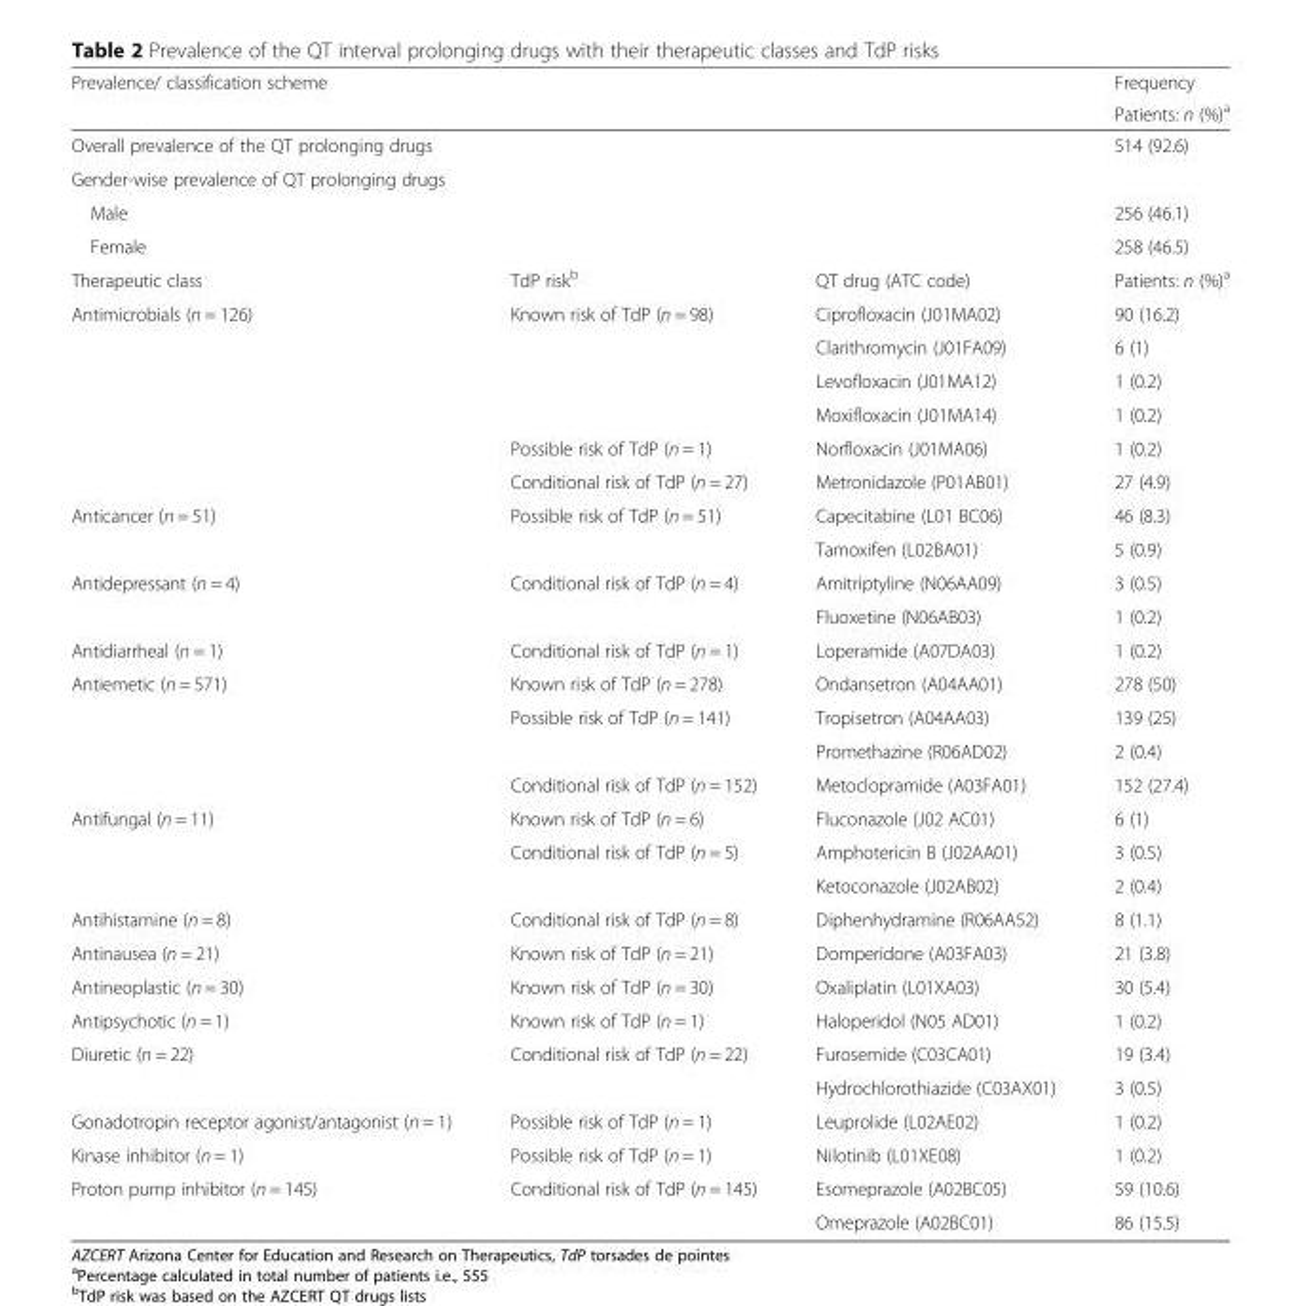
<table><thead><tr><td rowspan="2" colspan="3">Prevalence/ classification scheme</td><td rowspan="2">Frequency Patients: n (%)<sup>a</sup></td></tr><tr></tr></thead><tbody><tr><td colspan="3">Overall prevalence of the QT prolonging drugs</td><td>514 (92.6)</td></tr><tr><td colspan="4">Gender-wise prevalence of QT prolonging drugs</td></tr><tr><td colspan="3">Male</td><td>256 (46.1)</td></tr><tr><td colspan="3">Female</td><td>258 (46.5)</td></tr><tr><td>Therapeutic class</td><td>TdP risk<sup>b</sup></td><td>QT drug (ATC code)</td><td>Patients: n (%)<sup>a</sup></td></tr><tr><td rowspan="6">Antimicrobials (n = 126)</td><td rowspan="4">Known risk of TdP (n = 98)</td><td>Ciprofloxacin (J01MA02)</td><td>90 (16.2)</td></tr><tr><td>Clarithromycin (J01FA09)</td><td>6 (1)</td></tr><tr><td>Levofloxacin (J01MA12)</td><td>1 (0.2)</td></tr><tr><td>Moxifloxacin (J01MA14)</td><td>1 (0.2)</td></tr><tr><td>Possible risk of TdP (n = 1)</td><td>Norfloxacin (J01MA06)</td><td>1 (0.2)</td></tr><tr><td>Conditional risk of TdP (n = 27)</td><td>Metronidazole (P01AB01)</td><td>27 (4.9)</td></tr><tr><td rowspan="2">Anticancer (n = 51)</td><td rowspan="2">Possible risk of TdP (n = 51)</td><td>Capecitabine (L01 BC06)</td><td>46 (8.3)</td></tr><tr><td>Tamoxifen (L02BA01)</td><td>5 (0.9)</td></tr><tr><td rowspan="2">Antidepressant (n = 4)</td><td rowspan="2">Conditional risk of TdP (n = 4)</td><td>Amitriptyline (N06AA09)</td><td>3 (0.5)</td></tr><tr><td>Fluoxetine (N06AB03)</td><td>1 (0.2)</td></tr><tr><td>Antidiarrheal (n = 1)</td><td>Conditional risk of TdP (n = 1)</td><td>Loperamide (A07DA03)</td><td>1 (0.2)</td></tr><tr><td rowspan="4">Antiemetic (n = 571)</td><td>Known risk of TdP (n = 278)</td><td>Ondansetron (A04AA01)</td><td>278 (50)</td></tr><tr><td rowspan="2">Possible risk of TdP (n = 141)</td><td>Tropisetron (A04AA03)</td><td>139 (25)</td></tr><tr><td>Promethazine (R06AD02)</td><td>2 (0.4)</td></tr><tr><td>Conditional risk of TdP (n = 152)</td><td>Metoclopramide (A03FA01)</td><td>152 (27.4)</td></tr><tr><td rowspan="3">Antifungal (n = 11)</td><td>Known risk of TdP (n = 6)</td><td>Fluconazole (J02 AC01)</td><td>6 (1)</td></tr><tr><td rowspan="2">Conditional risk of TdP (n = 5)</td><td>Amphotericin B (J02AA01)</td><td>3 (0.5)</td></tr><tr><td>Ketoconazole (J02AB02)</td><td>2 (0.4)</td></tr><tr><td>Antihistamine (n = 8)</td><td>Conditional risk of TdP (n = 8)</td><td>Diphenhydramine (R06AA52)</td><td>8 (1.1)</td></tr><tr><td>Antinausea (n = 21)</td><td>Known risk of TdP (n = 21)</td><td>Domperidone (A03FA03)</td><td>21 (3.8)</td></tr><tr><td>Antineoplastic (n = 30)</td><td>Known risk of TdP (n = 30)</td><td>Oxaliplatin (L01XA03)</td><td>30 (5.4)</td></tr><tr><td>Antipsychotic (n = 1)</td><td>Known risk of TdP (n = 1)</td><td>Haloperidol (N05 AD01)</td><td>1 (0.2)</td></tr><tr><td rowspan="2">Diuretic (n = 22)</td><td rowspan="2">Conditional risk of TdP (n = 22)</td><td>Furosemide (C03CA01)</td><td>19 (3.4)</td></tr><tr><td>Hydrochlorothiazide (C03AX01)</td><td>3 (0.5)</td></tr><tr><td>Gonadotropin receptor agonist/antagonist (n = 1)</td><td>Possible risk of TdP (n = 1)</td><td>Leuprolide (L02AE02)</td><td>1 (0.2)</td></tr><tr><td>Kinase inhibitor (n = 1)</td><td>Possible risk of TdP (n = 1)</td><td>Nilotinib (L01XE08)</td><td>1 (0.2)</td></tr><tr><td rowspan="2">Proton pump inhibitor (n = 145)</td><td rowspan="2">Conditional risk of TdP (n = 145)</td><td>Esomeprazole (A02BC05)</td><td>59 (10.6)</td></tr><tr><td>Omeprazole (A02BC01)</td><td>86 (15.5)</td></tr></tbody></table>